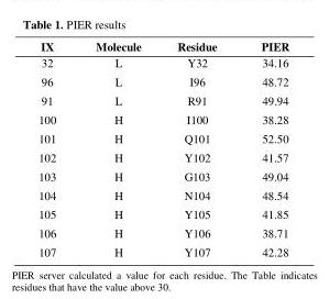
<table><thead><tr><td>IX</td><td>Molecule</td><td>Residue</td><td>PIER</td></tr></thead><tbody><tr><td>32</td><td>L</td><td>Y32</td><td>34.16</td></tr><tr><td>96</td><td>L</td><td>I96</td><td>48.72</td></tr><tr><td>91</td><td>L</td><td>R91</td><td>49.94</td></tr><tr><td>100</td><td>H</td><td>I100</td><td>38.28</td></tr><tr><td>101</td><td>H</td><td>Q101</td><td>52.50</td></tr><tr><td>102</td><td>H</td><td>Y102</td><td>41.57</td></tr><tr><td>103</td><td>H</td><td>G103</td><td>49.04</td></tr><tr><td>104</td><td>H</td><td>N104</td><td>48.54</td></tr><tr><td>105</td><td>H</td><td>Y105</td><td>41.85</td></tr><tr><td>106</td><td>H</td><td>Y106</td><td>38.71</td></tr><tr><td>107</td><td>H</td><td>Y107</td><td>42.28</td></tr></tbody></table>